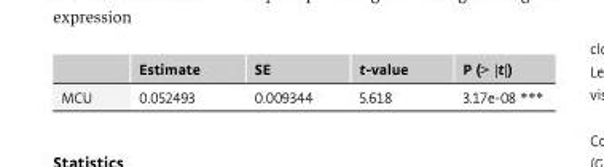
<table><thead><tr><td></td><td>Estimate</td><td>SE</td><td>t-value</td><td>P (&gt; |t|)</td></tr></thead><tbody><tr><td>MCU</td><td>0.052493</td><td>0.009344</td><td>5.618</td><td>3.17e-08 ***</td></tr></tbody></table>